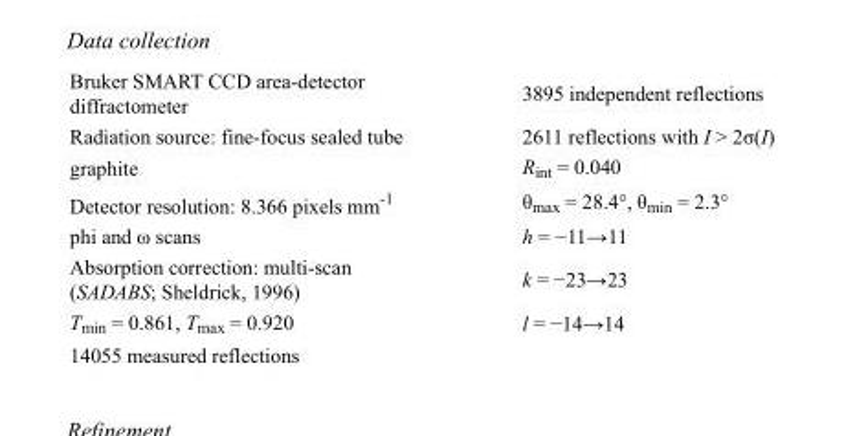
<table><tbody><tr><td>Bruker SMART CCD area-detector diffractometer</td><td>3895 independent reflections</td></tr><tr><td>Radiation source: fine-focus sealed tube</td><td>2611 reflections with I &gt; 2σ(I)</td></tr><tr><td>graphite</td><td>R<sub>int</sub> = 0.040</td></tr><tr><td>Detector resolution: 8.366 pixels mm<sup>-1</sup></td><td>θ<sub>max</sub> = 28.4°, θ<sub>min</sub> = 2.3°</td></tr><tr><td>phi and ω scans</td><td>h = −11→11</td></tr><tr><td>Absorption correction: multi-scan (SADABS; Sheldrick, 1996)</td><td>k = −23→23</td></tr><tr><td>T<sub>min</sub> = 0.861, T<sub>max</sub> = 0.920</td><td>l = −14→14</td></tr><tr><td>14055 measured reflections</td><td></td></tr></tbody></table>